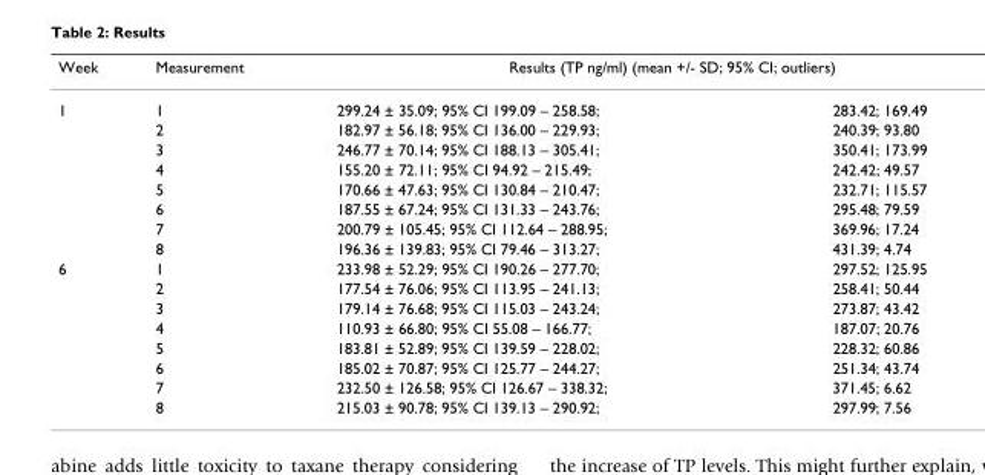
<table><thead><tr><td rowspan="2">Week 1</td><td rowspan="2">Measurement 1</td><td colspan="2">Results (TP ng/ml) (mean +/- SD; 95% CI; outliers)</td></tr><tr><td>299.24 ± 35.09; 95% CI 199.09 – 258.58;</td><td>283.42; 169.49</td></tr></thead><tbody><tr><td></td><td>2</td><td>182.97 ± 56.18; 95% CI 136.00 – 229.93;</td><td>240.39; 93.80</td></tr><tr><td></td><td>3</td><td>246.77 ± 70.14; 95% CI 188.13 – 305.41;</td><td>350.41; 173.99</td></tr><tr><td></td><td>4</td><td>155.20 ± 72.11; 95% CI 94.92 – 215.49;</td><td>242.42; 49.57</td></tr><tr><td></td><td>5</td><td>170.66 ± 47.63; 95% CI 130.84 – 210.47;</td><td>232.71; 115.57</td></tr><tr><td></td><td>6</td><td>187.55 ± 67.24; 95% CI 131.33 – 243.76;</td><td>295.48; 79.59</td></tr><tr><td></td><td>7</td><td>200.79 ± 105.45; 95% CI 112.64 – 288.95;</td><td>369.96; 17.24</td></tr><tr><td></td><td>8</td><td>196.36 ± 139.83; 95% CI 79.46 – 313.27;</td><td>431.39; 4.74</td></tr><tr><td rowspan="8">6</td><td>1</td><td>233.98 ± 52.29; 95% CI 190.26 – 277.70;</td><td>297.52; 125.95</td></tr><tr><td>2</td><td>177.54 ± 76.06; 95% CI 113.95 – 241.13;</td><td>258.41; 50.44</td></tr><tr><td>3</td><td>179.14 ± 76.68; 95% CI 115.03 – 243.24;</td><td>273.87; 43.42</td></tr><tr><td>4</td><td>110.93 ± 66.80; 95% CI 55.08 – 166.77;</td><td>187.07; 20.76</td></tr><tr><td>5</td><td>183.81 ± 52.89; 95% CI 139.59 – 228.02;</td><td>228.32; 60.86</td></tr><tr><td>6</td><td>185.02 ± 70.87; 95% CI 125.77 – 244.27;</td><td>251.34; 43.74</td></tr><tr><td>7</td><td>232.50 ± 126.58; 95% CI 126.67 – 338.32;</td><td>371.45; 6.62</td></tr><tr><td>8</td><td>215.03 ± 90.78; 95% CI 139.13 – 290.92;</td><td>297.99; 7.56</td></tr></tbody></table>